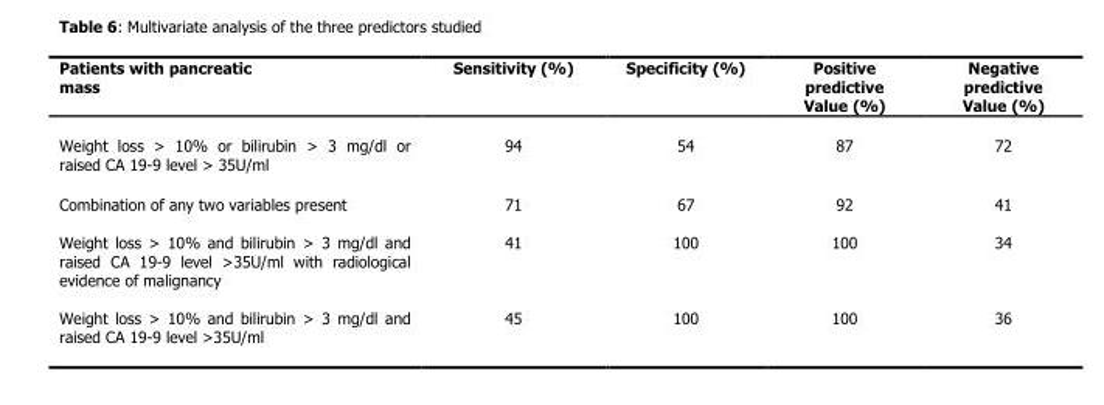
<table><thead><tr><td>Patients with pancreatic mass</td><td>Sensitivity (%)</td><td>Specificity (%)</td><td>Positive predictive Value (%)</td><td>Negative predictive Value (%)</td></tr></thead><tbody><tr><td>Weight loss &gt; 10% or bilirubin &gt; 3 mg/dl or raised CA 19-9 level &gt; 35U/ml</td><td>94</td><td>54</td><td>87</td><td>72</td></tr><tr><td>Combination of any two variables present</td><td>71</td><td>67</td><td>92</td><td>41</td></tr><tr><td>Weight loss &gt; 10% and bilirubin &gt; 3 mg/dl and raised CA 19-9 level &gt;35U/ml with radiological evidence of malignancy</td><td>41</td><td>100</td><td>100</td><td>34</td></tr><tr><td>Weight loss &gt; 10% and bilirubin &gt; 3 mg/dl and raised CA 19-9 level &gt;35U/ml</td><td>45</td><td>100</td><td>100</td><td>36</td></tr></tbody></table>